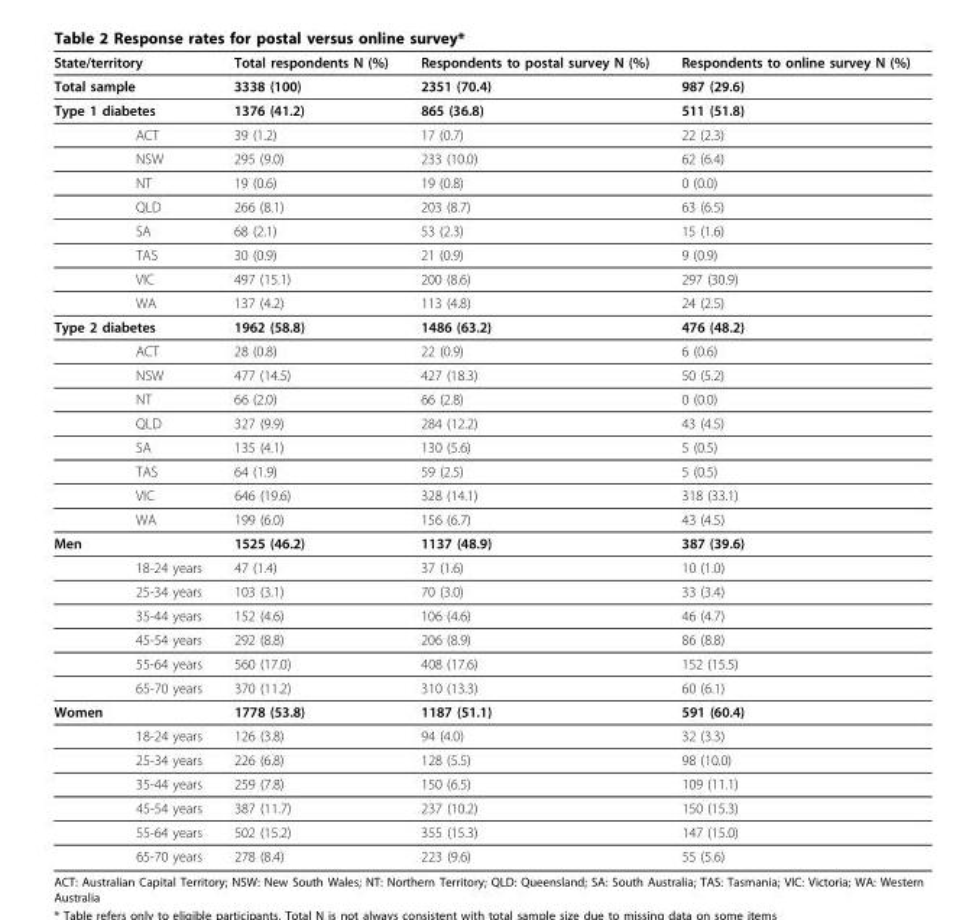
<table><thead><tr><td>State/territory</td><td>Total respondents N (%)</td><td>Respondents to postal survey N (%)</td><td>Respondents to online survey N (%)</td></tr></thead><tbody><tr><td>Total sample</td><td>3338 (100)</td><td>2351 (70.4)</td><td>987 (29.6)</td></tr><tr><td>Type 1 diabetes</td><td>1376 (41.2)</td><td>865 (36.8)</td><td>511 (51.8)</td></tr><tr><td>ACT</td><td>39 (1.2)</td><td>17 (0.7)</td><td>22 (2.3)</td></tr><tr><td>NSW</td><td>295 (9.0)</td><td>233 (10.0)</td><td>62 (6.4)</td></tr><tr><td>NT</td><td>19 (0.6)</td><td>19 (0.8)</td><td>0 (0.0)</td></tr><tr><td>QLD</td><td>266 (8.1)</td><td>203 (8.7)</td><td>63 (6.5)</td></tr><tr><td>SA</td><td>68 (2.1)</td><td>53 (2.3)</td><td>15 (1.6)</td></tr><tr><td>TAS</td><td>30 (0.9)</td><td>21 (0.9)</td><td>9 (0.9)</td></tr><tr><td>VIC</td><td>497 (15.1)</td><td>200 (8.6)</td><td>297 (30.9)</td></tr><tr><td>WA</td><td>137 (4.2)</td><td>113 (4.8)</td><td>24 (2.5)</td></tr><tr><td>Type 2 diabetes</td><td>1962 (58.8)</td><td>1486 (63.2)</td><td>476 (48.2)</td></tr><tr><td>ACT</td><td>28 (0.8)</td><td>22 (0.9)</td><td>6 (0.6)</td></tr><tr><td>NSW</td><td>477 (14.5)</td><td>427 (18.3)</td><td>50 (5.2)</td></tr><tr><td>NT</td><td>66 (2.0)</td><td>66 (2.8)</td><td>0 (0.0)</td></tr><tr><td>QLD</td><td>327 (9.9)</td><td>284 (12.2)</td><td>43 (4.5)</td></tr><tr><td>SA</td><td>135 (4.1)</td><td>130 (5.6)</td><td>5 (0.5)</td></tr><tr><td>TAS</td><td>64 (1.9)</td><td>59 (2.5)</td><td>5 (0.5)</td></tr><tr><td>VIC</td><td>646 (19.6)</td><td>328 (14.1)</td><td>318 (33.1)</td></tr><tr><td>WA</td><td>199 (6.0)</td><td>156 (6.7)</td><td>43 (4.5)</td></tr><tr><td>Men</td><td>1525 (46.2)</td><td>1137 (48.9)</td><td>387 (39.6)</td></tr><tr><td>18-24 years</td><td>47 (1.4)</td><td>37 (1.6)</td><td>10 (1.0)</td></tr><tr><td>25-34 years</td><td>103 (3.1)</td><td>70 (3.0)</td><td>33 (3.4)</td></tr><tr><td>35-44 years</td><td>152 (4.6)</td><td>106 (4.6)</td><td>46 (4.7)</td></tr><tr><td>45-54 years</td><td>292 (8.8)</td><td>206 (8.9)</td><td>86 (8.8)</td></tr><tr><td>55-64 years</td><td>560 (17.0)</td><td>408 (17.6)</td><td>152 (15.5)</td></tr><tr><td>65-70 years</td><td>370 (11.2)</td><td>310 (13.3)</td><td>60 (6.1)</td></tr><tr><td>Women</td><td>1778 (53.8)</td><td>1187 (51.1)</td><td>591 (60.4)</td></tr><tr><td>18-24 years</td><td>126 (3.8)</td><td>94 (4.0)</td><td>32 (3.3)</td></tr><tr><td>25-34 years</td><td>226 (6.8)</td><td>128 (5.5)</td><td>98 (10.0)</td></tr><tr><td>35-44 years</td><td>259 (7.8)</td><td>150 (6.5)</td><td>109 (11.1)</td></tr><tr><td>45-54 years</td><td>387 (11.7)</td><td>237 (10.2)</td><td>150 (15.3)</td></tr><tr><td>55-64 years</td><td>502 (15.2)</td><td>355 (15.3)</td><td>147 (15.0)</td></tr><tr><td>65-70 years</td><td>278 (8.4)</td><td>223 (9.6)</td><td>55 (5.6)</td></tr></tbody></table>